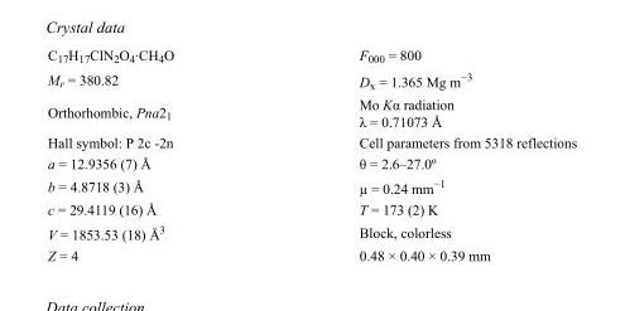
<table><tbody><tr><td>C<sub>17</sub>H<sub>17</sub>ClN<sub>2</sub>O<sub>4</sub>·CH<sub>4</sub>O</td><td>F<sub>000</sub> = 800</td></tr><tr><td>M<sub>r</sub> = 380.82</td><td>D<sub>x</sub> = 1.365 Mg m<sup>−3</sup></td></tr><tr><td>Orthorhombic, Pna2<sub>1</sub></td><td>Mo Kα radiation λ = 0.71073 Å</td></tr><tr><td>Hall symbol: P 2c -2n</td><td>Cell parameters from 5318 reflections</td></tr><tr><td>a = 12.9356 (7) Å</td><td>θ = 2.6–27.0º</td></tr><tr><td>b = 4.8718 (3) Å</td><td>µ = 0.24 mm<sup>−1</sup></td></tr><tr><td>c = 29.4119 (16) Å</td><td>T = 173 (2) K</td></tr><tr><td>V = 1853.53 (18) Å<sup>3</sup></td><td>Block, colorless</td></tr><tr><td>Z = 4</td><td>0.48 × 0.40 × 0.39 mm</td></tr></tbody></table>